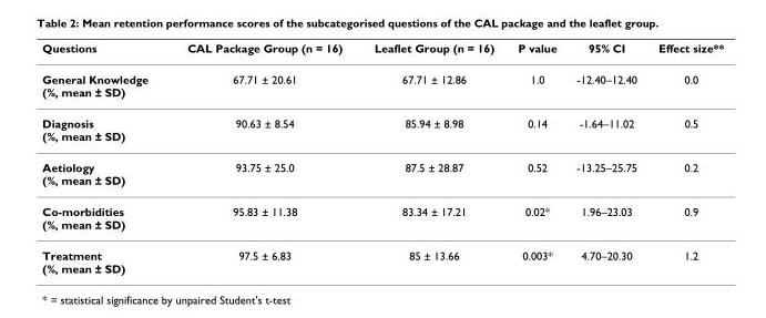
<table><thead><tr><td>Questions</td><td>CAL Package Group (n = 16)</td><td>Leaflet Group (n = 16)</td><td>P value</td><td>95% CI</td><td>Effect size**</td></tr></thead><tbody><tr><td>General Knowledge (%, mean ± SD)</td><td>67.71 ± 20.61</td><td>67.71 ± 12.86</td><td>1.0</td><td>-12.40–12.40</td><td>0.0</td></tr><tr><td>Diagnosis (%, mean ± SD)</td><td>90.63 ± 8.54</td><td>85.94 ± 8.98</td><td>0.14</td><td>-1.64–11.02</td><td>0.5</td></tr><tr><td>Aetiology (%, mean ± SD)</td><td>93.75 ± 25.0</td><td>87.5 ± 28.87</td><td>0.52</td><td>-13.25–25.75</td><td>0.2</td></tr><tr><td>Co-morbidities (%, mean ± SD)</td><td>95.83 ± 11.38</td><td>83.34 ± 17.21</td><td>0.02*</td><td>1.96–23.03</td><td>0.9</td></tr><tr><td>Treatment (%, mean ± SD)</td><td>97.5 ± 6.83</td><td>85 ± 13.66</td><td>0.003*</td><td>4.70–20.30</td><td>1.2</td></tr></tbody></table>